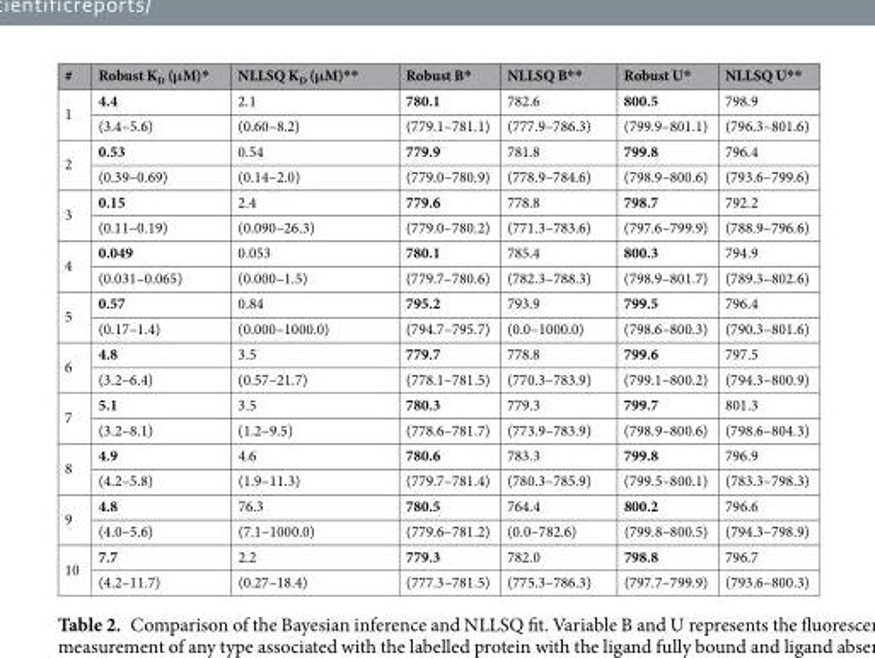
<table><thead><tr><td>#</td><td>Robust K<sub>D</sub> (μM)*</td><td>NLLSQ K<sub>D</sub> (μM)**</td><td>Robust B*</td><td>NLLSQ B**</td><td>Robust U*</td><td>NLLSQ U**</td></tr></thead><tbody><tr><td rowspan="2">1</td><td>4.4</td><td>2.1</td><td>780.1</td><td>782.6</td><td>800.5</td><td>798.9</td></tr><tr><td>(3.4–5.6)</td><td>(0.60–8.2)</td><td>(779.1–781.1)</td><td>(777.9–786.3)</td><td>(799.9–801.1)</td><td>(796.3–801.6)</td></tr><tr><td rowspan="2">2</td><td>0.53</td><td>0.54</td><td>779.9</td><td>781.8</td><td>799.8</td><td>796.4</td></tr><tr><td>(0.39–0.69)</td><td>(0.14–2.0)</td><td>(779.0–780.9)</td><td>(778.9–784.6)</td><td>(798.9–800.6)</td><td>(793.6–799.6)</td></tr><tr><td rowspan="2">3</td><td>0.15</td><td>2.4</td><td>779.6</td><td>778.8</td><td>798.7</td><td>792.2</td></tr><tr><td>(0.11–0.19)</td><td>(0.090–26.3)</td><td>(779.0–780.2)</td><td>(771.3–783.6)</td><td>(797.6–799.9)</td><td>(788.9–796.6)</td></tr><tr><td rowspan="2">4</td><td>0.049</td><td>0.053</td><td>780.1</td><td>785.4</td><td>800.3</td><td>794.9</td></tr><tr><td>(0.031–0.065)</td><td>(0.000–1.5)</td><td>(779.7–780.6)</td><td>(782.3–788.3)</td><td>(798.9–801.7)</td><td>(789.3–802.6)</td></tr><tr><td rowspan="2">5</td><td>0.57</td><td>0.84</td><td>795.2</td><td>793.9</td><td>799.5</td><td>796.4</td></tr><tr><td>(0.17–1.4)</td><td>(0.000–1000.0)</td><td>(794.7–795.7)</td><td>(0.0–1000.0)</td><td>(798.6–800.3)</td><td>(790.3–801.6)</td></tr><tr><td rowspan="2">6</td><td>4.8</td><td>3.5</td><td>779.7</td><td>778.8</td><td>799.6</td><td>797.5</td></tr><tr><td>(3.2–6.4)</td><td>(0.57–21.7)</td><td>(778.1–781.5)</td><td>(770.3–783.9)</td><td>(799.1–800.2)</td><td>(794.3–800.9)</td></tr><tr><td rowspan="2">7</td><td>5.1</td><td>3.5</td><td>780.3</td><td>779.3</td><td>799.7</td><td>801.3</td></tr><tr><td>(3.2–8.1)</td><td>(1.2–9.5)</td><td>(778.6–781.7)</td><td>(773.9–783.9)</td><td>(798.9–800.6)</td><td>(798.6–804.3)</td></tr><tr><td rowspan="2">8</td><td>4.9</td><td>4.6</td><td>780.6</td><td>783.3</td><td>799.8</td><td>796.9</td></tr><tr><td>(4.2–5.8)</td><td>(1.9–11.3)</td><td>(779.7–781.4)</td><td>(780.3–785.9)</td><td>(799.5–800.1)</td><td>(783.3–798.3)</td></tr><tr><td rowspan="2">9</td><td>4.8</td><td>76.3</td><td>780.5</td><td>764.4</td><td>800.2</td><td>796.6</td></tr><tr><td>(4.0–5.6)</td><td>(7.1–1000.0)</td><td>(779.6–781.2)</td><td>(0.0–782.6)</td><td>(799.8–800.5)</td><td>(794.3–798.9)</td></tr><tr><td rowspan="2">10</td><td>7.7</td><td>2.2</td><td>779.3</td><td>782.0</td><td>798.8</td><td>796.7</td></tr><tr><td>(4.2–11.7)</td><td>(0.27–18.4)</td><td>(777.3–781.5)</td><td>(775.3–786.3)</td><td>(797.7–799.9)</td><td>(793.6–800.3)</td></tr></tbody></table>